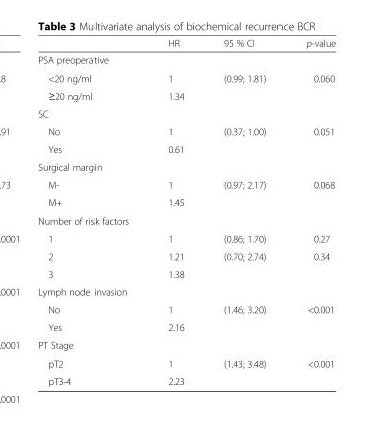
<table><thead><tr><td></td><td>HR</td><td>95 % CI</td><td>p-value</td></tr></thead><tbody><tr><td colspan="4">PSA preoperative</td></tr><tr><td>&lt;20 ng/ml</td><td>1</td><td>(0.99; 1.81)</td><td>0.060</td></tr><tr><td>≥20 ng/ml</td><td>1.34</td><td></td><td></td></tr><tr><td colspan="4">SC</td></tr><tr><td>No</td><td>1</td><td>(0.37; 1.00)</td><td>0.051</td></tr><tr><td>Yes</td><td>0.61</td><td></td><td></td></tr><tr><td colspan="4">Surgical margin</td></tr><tr><td>M-</td><td>1</td><td>(0.97; 2.17)</td><td>0.068</td></tr><tr><td>M+</td><td>1.45</td><td></td><td></td></tr><tr><td colspan="4">Number of risk factors</td></tr><tr><td>1</td><td>1</td><td>(0.86; 1.70)</td><td>0.27</td></tr><tr><td>2</td><td>1.21</td><td>(0.70; 2.74)</td><td>0.34</td></tr><tr><td>3</td><td>1.38</td><td></td><td></td></tr><tr><td colspan="4">Lymph node invasion</td></tr><tr><td>No</td><td>1</td><td>(1.46; 3.20)</td><td>&lt;0.001</td></tr><tr><td>Yes</td><td>2.16</td><td></td><td></td></tr><tr><td colspan="4">PT Stage</td></tr><tr><td>pT2</td><td>1</td><td>(1.43; 3.48)</td><td>&lt;0.001</td></tr><tr><td>pT3-4</td><td>2.23</td><td></td><td></td></tr></tbody></table>